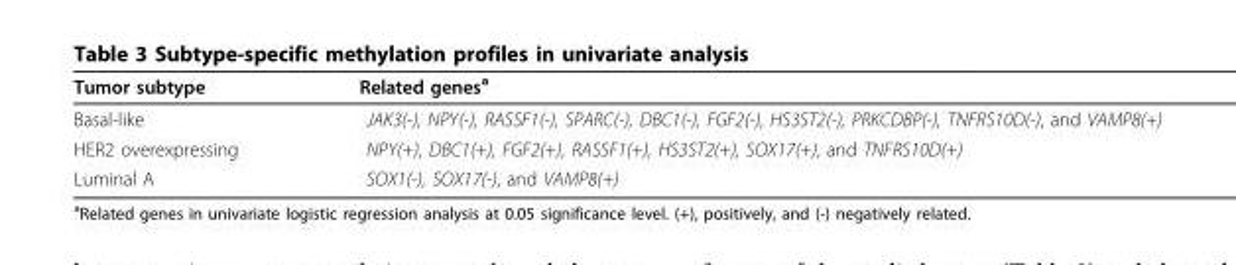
<table><thead><tr><td>Tumor subtype</td><td>Related genes<sup>a</sup></td></tr></thead><tbody><tr><td>Basal-like</td><td>JAK3(-), NPY(-), RASSF1(-), SPARC(-), DBC1(-), FGF2(-), HS3ST2(-), PRKCDBP(-), TNFRS10D(-), and VAMP8(+)</td></tr><tr><td>HER2 overexpressing</td><td>NPY(+), DBC1(+), FGF2(+), RASSF1(+), HS3ST2(+), SOX17(+), and TNFRS10D(+)</td></tr><tr><td>Luminal A</td><td>SOX1(-), SOX17(-), and VAMP8(+)</td></tr></tbody></table>